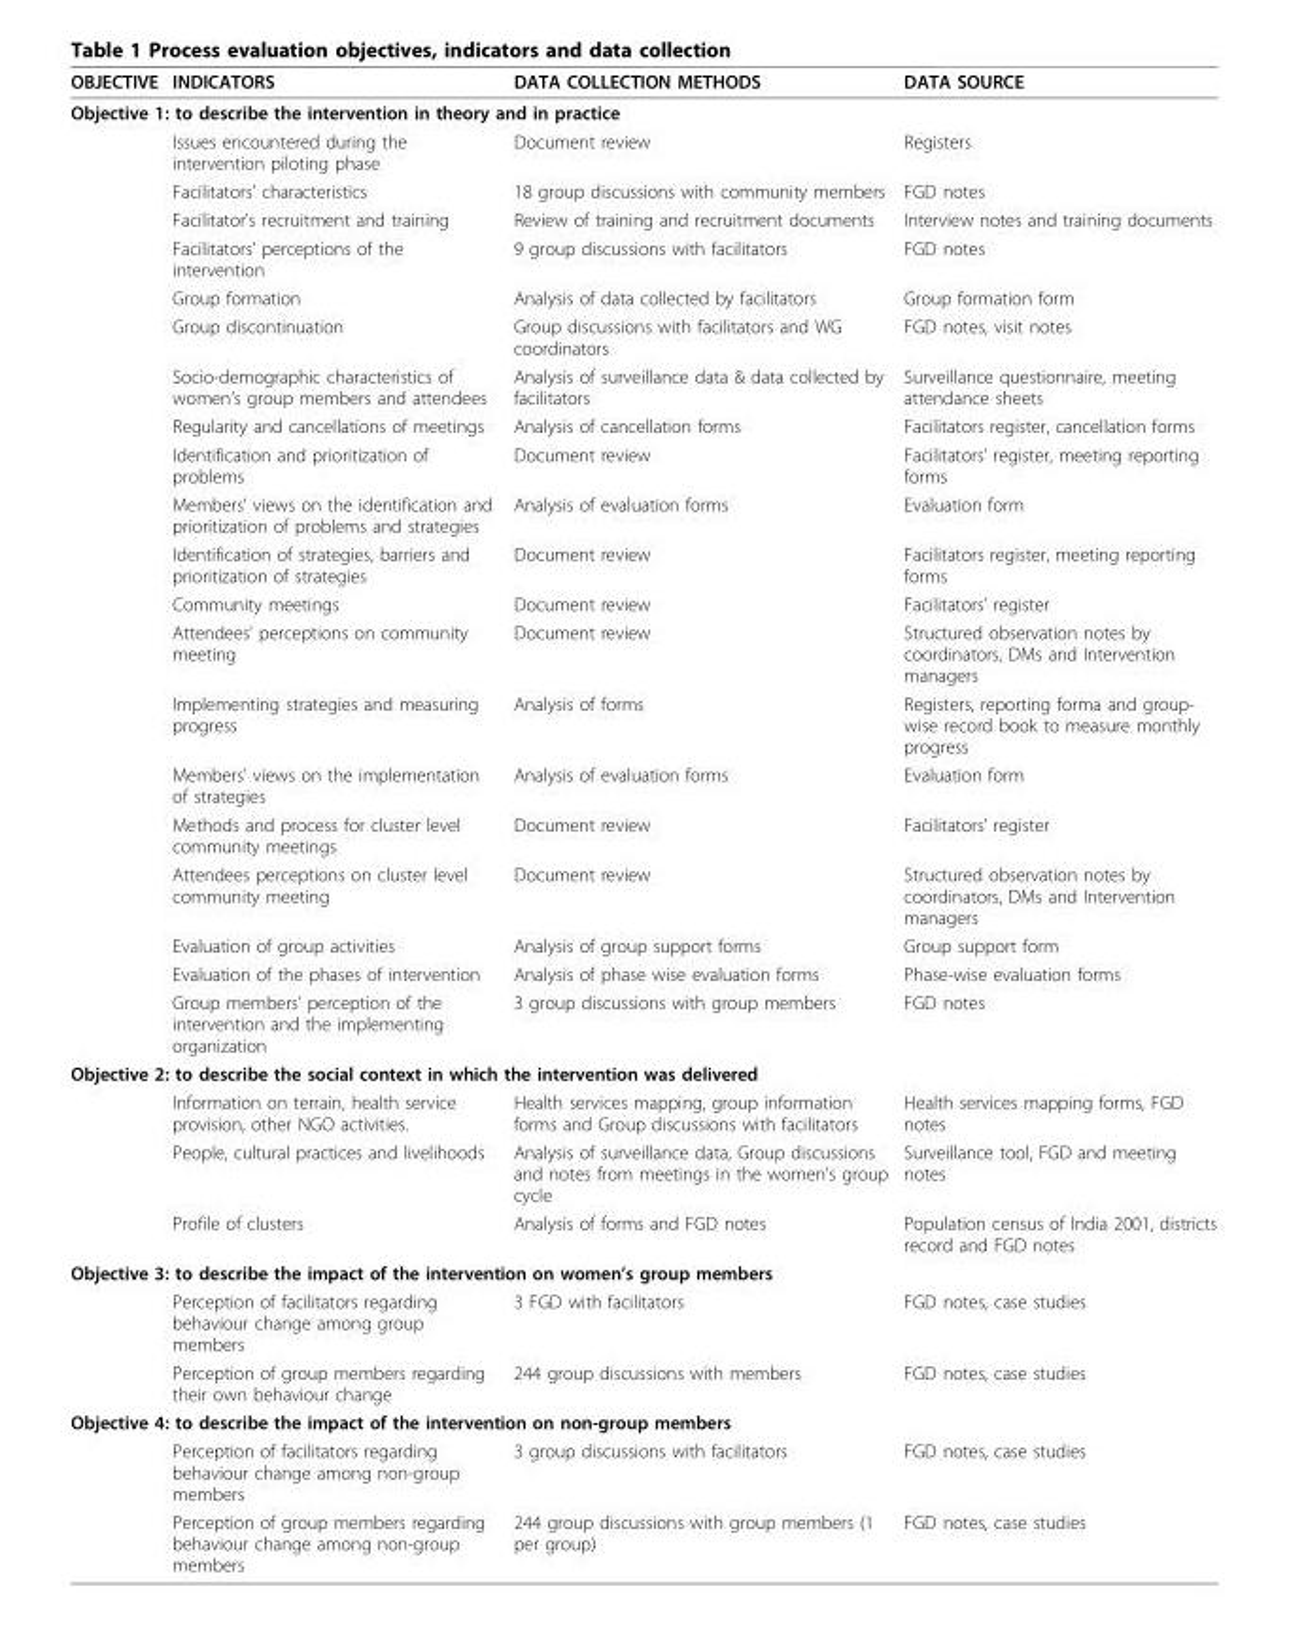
<table><thead><tr><td>OBJECTIVE</td><td>INDICATORS</td><td>DATA COLLECTION METHODS</td><td>DATA SOURCE</td></tr></thead><tbody><tr><td colspan="4">Objective 1: to describe the intervention in theory and in practice</td></tr><tr><td></td><td>Issues encountered during the intervention piloting phase</td><td>Document review</td><td>Registers</td></tr><tr><td></td><td>Facilitators’ characteristics</td><td>18 group discussions with community members</td><td>FGD notes</td></tr><tr><td></td><td>Facilitator’s recruitment and training</td><td>Review of training and recruitment documents</td><td>Interview notes and training documents</td></tr><tr><td></td><td>Facilitators’ perceptions of the intervention</td><td>9 group discussions with facilitators</td><td>FGD notes</td></tr><tr><td></td><td>Group formation</td><td>Analysis of data collected by facilitators</td><td>Group formation form</td></tr><tr><td></td><td>Group discontinuation</td><td>Group discussions with facilitators and WG coordinators</td><td>FGD notes, visit notes</td></tr><tr><td></td><td>Socio-demographic characteristics of women’s group members and attendees</td><td>Analysis of surveillance data &amp; data collected by facilitators</td><td>Surveillance questionnaire, meeting attendance sheets</td></tr><tr><td></td><td>Regularity and cancellations of meetings</td><td>Analysis of cancellation forms</td><td>Facilitators register, cancellation forms</td></tr><tr><td></td><td>Identification and prioritization of problems</td><td>Document review</td><td>Facilitators’ register, meeting reporting forms</td></tr><tr><td></td><td>Members’ views on the identification and prioritization of problems and strategies</td><td>Analysis of evaluation forms</td><td>Evaluation form</td></tr><tr><td></td><td>Identification of strategies, barriers and prioritization of strategies</td><td>Document review</td><td>Facilitators register, meeting reporting forms</td></tr><tr><td></td><td>Community meetings</td><td>Document review</td><td>Facilitators’ register</td></tr><tr><td></td><td>Attendees’ perceptions on community meeting</td><td>Document review</td><td>Structured observation notes by coordinators, DMs and Intervention managers</td></tr><tr><td></td><td>Implementing strategies and measuring progress</td><td>Analysis of forms</td><td>Registers, reporting forma and group- wise record book to measure monthly progress</td></tr><tr><td></td><td>Members’ views on the implementation of strategies</td><td>Analysis of evaluation forms</td><td>Evaluation form</td></tr><tr><td></td><td>Methods and process for cluster level community meetings</td><td>Document review</td><td>Facilitators’ register</td></tr><tr><td></td><td>Attendees perceptions on cluster level community meeting</td><td>Document review</td><td>Structured observation notes by coordinators, DMs and Intervention managers</td></tr><tr><td></td><td>Evaluation of group activities</td><td>Analysis of group support forms</td><td>Group support form</td></tr><tr><td></td><td>Evaluation of the phases of intervention</td><td>Analysis of phase wise evaluation forms</td><td>Phase-wise evaluation forms</td></tr><tr><td></td><td>Group members’ perception of the intervention and the implementing organization</td><td>3 group discussions with group members</td><td>FGD notes</td></tr><tr><td colspan="4">Objective 2: to describe the social context in which the intervention was delivered</td></tr><tr><td></td><td>Information on terrain, health service provision, other NGO activities.</td><td>Health services mapping, group information forms and Group discussions with facilitators</td><td>Health services mapping forms, FGD notes</td></tr><tr><td></td><td>People, cultural practices and livelihoods</td><td>Analysis of surveillance data, Group discussions and notes from meetings in the women’s group cycle</td><td>Surveillance tool, FGD and meeting notes</td></tr><tr><td></td><td>Profile of clusters</td><td>Analysis of forms and FGD notes</td><td>Population census of India 2001, districts record and FGD notes</td></tr><tr><td colspan="4">Objective 3: to describe the impact of the intervention on women’s group members</td></tr><tr><td></td><td>Perception of facilitators regarding behaviour change among group members</td><td>3 FGD with facilitators</td><td>FGD notes, case studies</td></tr><tr><td></td><td>Perception of group members regarding their own behaviour change</td><td>244 group discussions with members</td><td>FGD notes, case studies</td></tr><tr><td colspan="4">Objective 4: to describe the impact of the intervention on non-group members</td></tr><tr><td></td><td>Perception of facilitators regarding behaviour change among non-group members</td><td>3 group discussions with facilitators</td><td>FGD notes, case studies</td></tr><tr><td></td><td>Perception of group members regarding behaviour change among non-group members</td><td>244 group discussions with group members (1 per group)</td><td>FGD notes, case studies</td></tr></tbody></table>